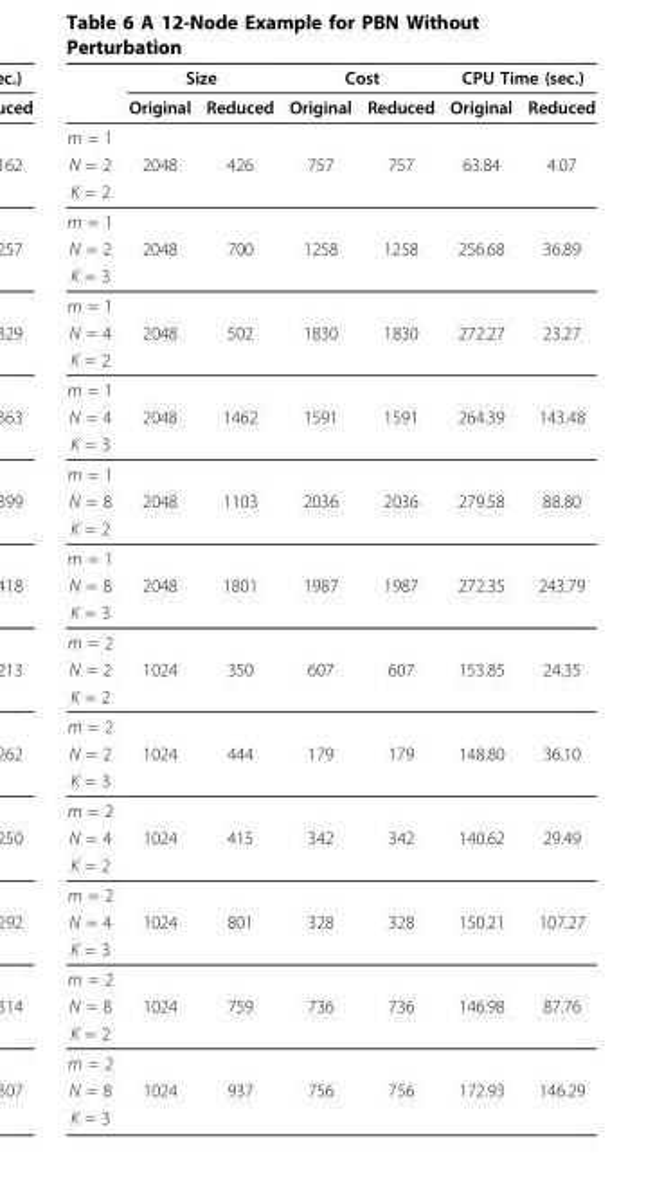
<table><thead><tr><td rowspan="2"></td><td colspan="2">Size</td><td colspan="2">Cost</td><td colspan="2">CPU Time (sec.)</td></tr><tr><td>Original</td><td>Reduced</td><td>Original</td><td>Reduced</td><td>Original</td><td>Reduced</td></tr></thead><tbody><tr><td colspan="7">m = 1</td></tr><tr><td>N = 2</td><td>2048</td><td>426</td><td>757</td><td>757</td><td>63.84</td><td>4.07</td></tr><tr><td colspan="7">K = 2</td></tr><tr><td colspan="7">m = 1</td></tr><tr><td>N = 2</td><td>2048</td><td>700</td><td>1258</td><td>1258</td><td>256.68</td><td>36.89</td></tr><tr><td colspan="7">K = 3</td></tr><tr><td colspan="7">m = 1</td></tr><tr><td>N = 4</td><td>2048</td><td>502</td><td>1830</td><td>1830</td><td>272.27</td><td>23.27</td></tr><tr><td colspan="7">K = 2</td></tr><tr><td colspan="7">m = 1</td></tr><tr><td>N = 4</td><td>2048</td><td>1462</td><td>1591</td><td>1591</td><td>264.39</td><td>143.48</td></tr><tr><td colspan="7">K = 3</td></tr><tr><td colspan="7">m = 1</td></tr><tr><td>N = 8</td><td>2048</td><td>1103</td><td>2036</td><td>2036</td><td>279.58</td><td>88.80</td></tr><tr><td colspan="7">K = 2</td></tr><tr><td colspan="7">m = 1</td></tr><tr><td>N = 8</td><td>2048</td><td>1801</td><td>1987</td><td>1987</td><td>272.35</td><td>243.79</td></tr><tr><td colspan="7">K = 3</td></tr><tr><td colspan="7">m = 2</td></tr><tr><td>N = 2</td><td>1024</td><td>350</td><td>607</td><td>607</td><td>153.85</td><td>24.35</td></tr><tr><td colspan="7">K = 2</td></tr><tr><td colspan="7">m = 2</td></tr><tr><td>N = 2</td><td>1024</td><td>444</td><td>179</td><td>179</td><td>148.80</td><td>36.10</td></tr><tr><td colspan="7">K = 3</td></tr><tr><td colspan="7">m = 2</td></tr><tr><td>N = 4</td><td>1024</td><td>415</td><td>342</td><td>342</td><td>140.62</td><td>29.49</td></tr><tr><td colspan="7">K = 2</td></tr><tr><td colspan="7">m = 2</td></tr><tr><td>N = 4</td><td>1024</td><td>801</td><td>328</td><td>328</td><td>150.21</td><td>107.27</td></tr><tr><td colspan="7">K = 3</td></tr><tr><td colspan="7">m = 2</td></tr><tr><td>N = 8</td><td>1024</td><td>759</td><td>736</td><td>736</td><td>146.98</td><td>87.76</td></tr><tr><td colspan="7">K = 2</td></tr><tr><td colspan="7">m = 2</td></tr><tr><td>N = 8</td><td>1024</td><td>937</td><td>756</td><td>756</td><td>172.93</td><td>146.29</td></tr><tr><td>K = 3</td><td></td><td></td><td></td><td></td><td></td><td></td></tr></tbody></table>